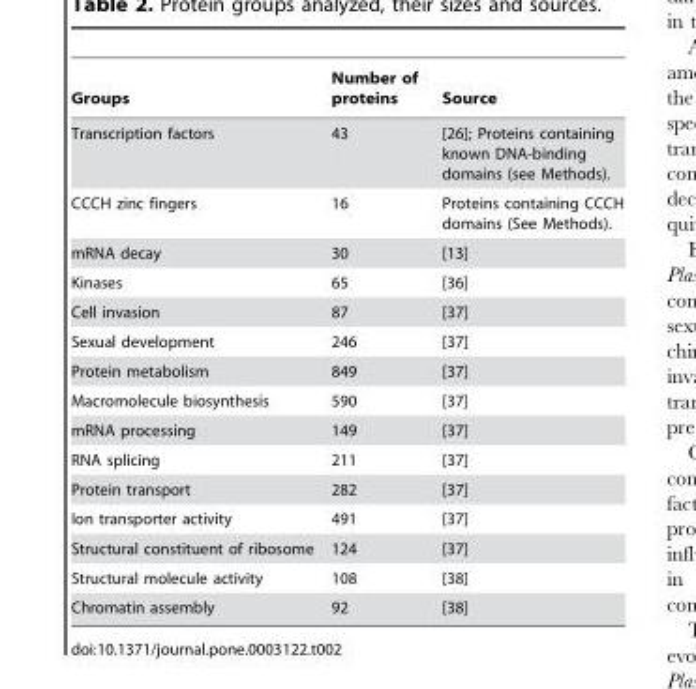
<table><thead><tr><td>Groups</td><td>Number of proteins</td><td>Source</td></tr></thead><tbody><tr><td>Transcription factors</td><td>43</td><td>[26]; Proteins containing known DNA-binding domains (see Methods).</td></tr><tr><td>CCCH zinc fingers</td><td>16</td><td>Proteins containing CCCH domains (See Methods).</td></tr><tr><td>mRNA decay</td><td>30</td><td>[13]</td></tr><tr><td>Kinases</td><td>65</td><td>[36]</td></tr><tr><td>Cell invasion</td><td>87</td><td>[37]</td></tr><tr><td>Sexual development</td><td>246</td><td>[37]</td></tr><tr><td>Protein metabolism</td><td>849</td><td>[37]</td></tr><tr><td>Macromolecule biosynthesis</td><td>590</td><td>[37]</td></tr><tr><td>mRNA processing</td><td>149</td><td>[37]</td></tr><tr><td>RNA splicing</td><td>211</td><td>[37]</td></tr><tr><td>Protein transport</td><td>282</td><td>[37]</td></tr><tr><td>Ion transporter activity</td><td>491</td><td>[37]</td></tr><tr><td>Structural constituent of ribosome</td><td>124</td><td>[37]</td></tr><tr><td>Structural molecule activity</td><td>108</td><td>[38]</td></tr><tr><td>Chromatin assembly</td><td>92</td><td>[38]</td></tr></tbody></table>